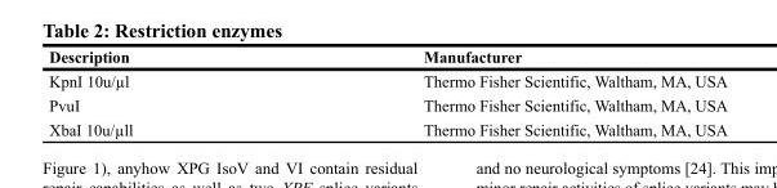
<table><thead><tr><td>Description</td><td>Manufacturer</td></tr></thead><tbody><tr><td>KpnI 10u/µl</td><td>Thermo Fisher Scientific, Waltham, MA, USA</td></tr><tr><td>PvuI</td><td>Thermo Fisher Scientific, Waltham, MA, USA</td></tr><tr><td>XbaI 10u/µll</td><td>Thermo Fisher Scientific, Waltham, MA, USA</td></tr></tbody></table>